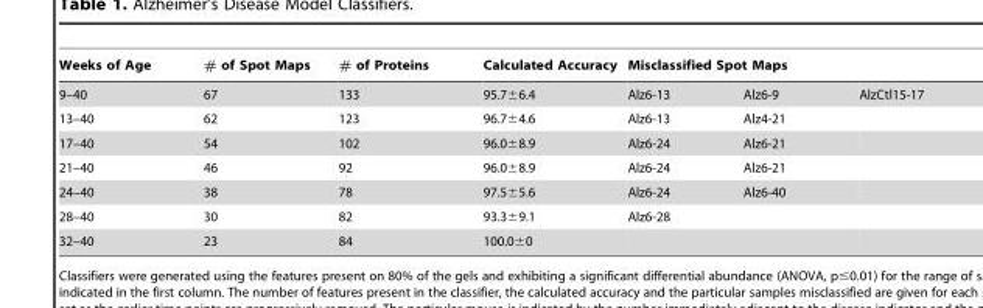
<table><thead><tr><td rowspan="2">Weeks of Age 9–40</td><td rowspan="2"># of Spot Maps 67</td><td rowspan="2"># of Proteins 133</td><td rowspan="2">Calculated Accuracy 95.7±6.4</td><td colspan="3">Misclassified Spot Maps</td></tr><tr><td>Alz6-13</td><td>Alz6-9</td><td>AlzCtl15-17</td></tr></thead><tbody><tr><td>13–40</td><td>62</td><td>123</td><td>96.7±4.6</td><td>Alz6-13</td><td>Alz4-21</td><td></td></tr><tr><td>17–40</td><td>54</td><td>102</td><td>96.0±8.9</td><td>Alz6-24</td><td>Alz6-21</td><td></td></tr><tr><td>21–40</td><td>46</td><td>92</td><td>96.0±8.9</td><td>Alz6-24</td><td>Alz6-21</td><td></td></tr><tr><td>24–40</td><td>38</td><td>78</td><td>97.5±5.6</td><td>Alz6-24</td><td>Alz6-40</td><td></td></tr><tr><td>28–40</td><td>30</td><td>82</td><td>93.3±9.1</td><td>Alz6-28</td><td></td><td></td></tr><tr><td>32–40</td><td>23</td><td>84</td><td>100.0±0</td><td></td><td></td><td></td></tr></tbody></table>